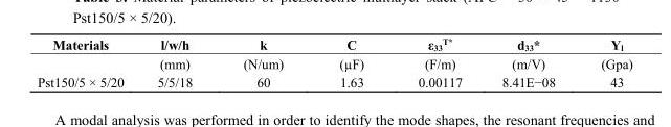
<table><thead><tr><td>Materials</td><td>l/w/h</td><td>k</td><td>C</td><td>ε<sub>33</sub><sup>T*</sup></td><td>d<sub>33</sub>*</td><td>Y<sub>l</sub></td></tr></thead><tbody><tr><td></td><td>(mm)</td><td>(N/um)</td><td>(µF)</td><td>(F/m)</td><td>(m/V)</td><td>(Gpa)</td></tr><tr><td>Pst150/5 × 5/20</td><td>5/5/18</td><td>60</td><td>1.63</td><td>0.00117</td><td>8.41E−08</td><td>43</td></tr></tbody></table>